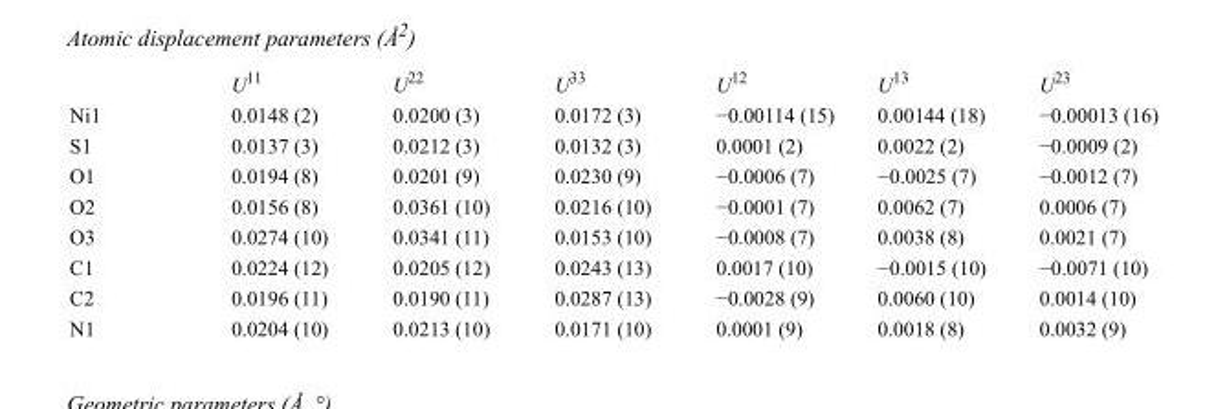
<table><thead><tr><td></td><td>U<sup>11</sup></td><td>U<sup>22</sup></td><td>U<sup>33</sup></td><td>U<sup>12</sup></td><td>U<sup>13</sup></td><td>U<sup>23</sup></td></tr></thead><tbody><tr><td>Ni1</td><td>0.0148 (2)</td><td>0.0200 (3)</td><td>0.0172 (3)</td><td>−0.00114 (15)</td><td>0.00144 (18)</td><td>−0.00013 (16)</td></tr><tr><td>S1</td><td>0.0137 (3)</td><td>0.0212 (3)</td><td>0.0132 (3)</td><td>0.0001 (2)</td><td>0.0022 (2)</td><td>−0.0009 (2)</td></tr><tr><td>O1</td><td>0.0194 (8)</td><td>0.0201 (9)</td><td>0.0230 (9)</td><td>−0.0006 (7)</td><td>−0.0025 (7)</td><td>−0.0012 (7)</td></tr><tr><td>O2</td><td>0.0156 (8)</td><td>0.0361 (10)</td><td>0.0216 (10)</td><td>−0.0001 (7)</td><td>0.0062 (7)</td><td>0.0006 (7)</td></tr><tr><td>O3</td><td>0.0274 (10)</td><td>0.0341 (11)</td><td>0.0153 (10)</td><td>−0.0008 (7)</td><td>0.0038 (8)</td><td>0.0021 (7)</td></tr><tr><td>C1</td><td>0.0224 (12)</td><td>0.0205 (12)</td><td>0.0243 (13)</td><td>0.0017 (10)</td><td>−0.0015 (10)</td><td>−0.0071 (10)</td></tr><tr><td>C2</td><td>0.0196 (11)</td><td>0.0190 (11)</td><td>0.0287 (13)</td><td>−0.0028 (9)</td><td>0.0060 (10)</td><td>0.0014 (10)</td></tr><tr><td>N1</td><td>0.0204 (10)</td><td>0.0213 (10)</td><td>0.0171 (10)</td><td>0.0001 (9)</td><td>0.0018 (8)</td><td>0.0032 (9)</td></tr></tbody></table>